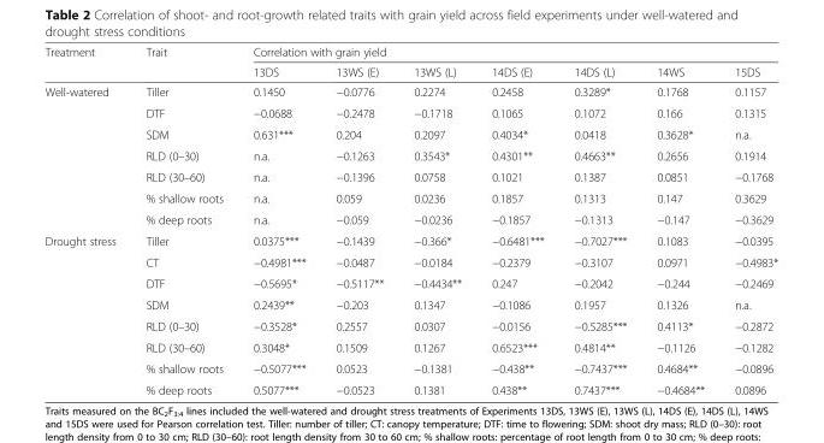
<table><thead><tr><td rowspan="2">Treatment</td><td rowspan="2">Trait</td><td colspan="7">Correlation with grain yield</td></tr><tr><td>13DS</td><td>13WS (E)</td><td>13WS (L)</td><td>14DS (E)</td><td>14DS (L)</td><td>14WS</td><td>15DS</td></tr></thead><tbody><tr><td rowspan="7">Well-watered</td><td>Tiller</td><td>0.1450</td><td>−0.0776</td><td>0.2274</td><td>0.2458</td><td>0.3289*</td><td>0.1768</td><td>0.1157</td></tr><tr><td>DTF</td><td>−0.0688</td><td>−0.2478</td><td>−0.1718</td><td>0.1065</td><td>0.1072</td><td>0.166</td><td>0.1315</td></tr><tr><td>SDM</td><td>0.631***</td><td>0.204</td><td>0.2097</td><td>0.4034*</td><td>0.0418</td><td>0.3628*</td><td>n.a.</td></tr><tr><td>RLD (0–30)</td><td>n.a.</td><td>−0.1263</td><td>0.3543*</td><td>0.4301**</td><td>0.4663**</td><td>0.2656</td><td>0.1914</td></tr><tr><td>RLD (30–60)</td><td>n.a.</td><td>−0.1396</td><td>0.0758</td><td>0.1021</td><td>0.1387</td><td>0.0851</td><td>−0.1768</td></tr><tr><td>% shallow roots</td><td>n.a.</td><td>0.059</td><td>0.0236</td><td>0.1857</td><td>0.1313</td><td>0.147</td><td>0.3629</td></tr><tr><td>% deep roots</td><td>n.a.</td><td>−0.059</td><td>−0.0236</td><td>−0.1857</td><td>−0.1313</td><td>−0.147</td><td>−0.3629</td></tr><tr><td rowspan="8">Drought stress</td><td>Tiller</td><td>0.0375***</td><td>−0.1439</td><td>−0.366*</td><td>−0.6481***</td><td>−0.7027***</td><td>0.1083</td><td>−0.0395</td></tr><tr><td>CT</td><td>−0.4981***</td><td>−0.0487</td><td>−0.0184</td><td>−0.2379</td><td>−0.3107</td><td>0.0971</td><td>−0.4983*</td></tr><tr><td>DTF</td><td>−0.5695*</td><td>−0.5117**</td><td>−0.4434**</td><td>0.247</td><td>−0.2042</td><td>−0.244</td><td>−0.2469</td></tr><tr><td>SDM</td><td>0.2439**</td><td>−0.203</td><td>0.1347</td><td>−0.1086</td><td>0.1957</td><td>0.1326</td><td>n.a.</td></tr><tr><td>RLD (0–30)</td><td>−0.3528*</td><td>0.2557</td><td>0.0307</td><td>−0.0156</td><td>−0.5285***</td><td>0.4113*</td><td>−0.2872</td></tr><tr><td>RLD (30–60)</td><td>0.3048*</td><td>0.1509</td><td>0.1267</td><td>0.6523***</td><td>0.4814**</td><td>−0.1126</td><td>−0.1282</td></tr><tr><td>% shallow roots</td><td>−0.5077***</td><td>0.0523</td><td>−0.1381</td><td>−0.438**</td><td>−0.7437***</td><td>0.4684**</td><td>−0.0896</td></tr><tr><td>% deep roots</td><td>0.5077***</td><td>−0.0523</td><td>0.1381</td><td>0.438**</td><td>0.7437***</td><td>−0.4684**</td><td>0.0896</td></tr></tbody></table>